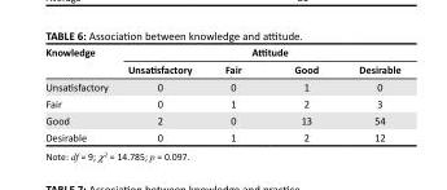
<table><thead><tr><td rowspan="2">Knowledge</td><td colspan="4">Attitude</td></tr><tr><td>Unsatisfactory</td><td>Fair</td><td>Good</td><td>Desirable</td></tr></thead><tbody><tr><td>Unsatisfactory</td><td>0</td><td>0</td><td>1</td><td>0</td></tr><tr><td>Fair</td><td>0</td><td>1</td><td>2</td><td>3</td></tr><tr><td>Good</td><td>2</td><td>0</td><td>13</td><td>54</td></tr><tr><td>Desirable</td><td>0</td><td>1</td><td>2</td><td>12</td></tr></tbody></table>